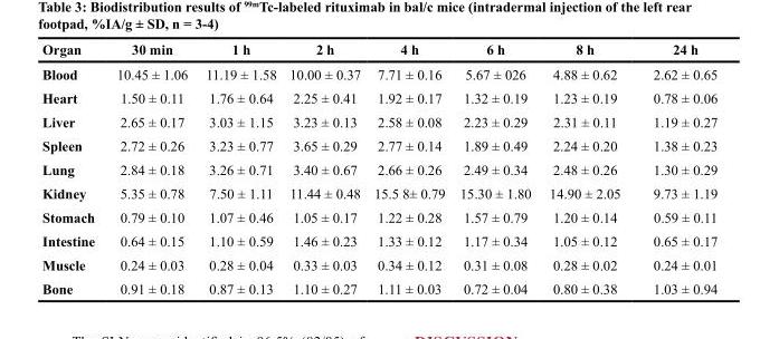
<table><thead><tr><td>Organ</td><td>30 min</td><td>1 h</td><td>2 h</td><td>4 h</td><td>6 h</td><td>8 h</td><td>24 h</td></tr></thead><tbody><tr><td>Blood</td><td>10.45 ± 1.06</td><td>11.19 ± 1.58</td><td>10.00 ± 0.37</td><td>7.71 ± 0.16</td><td>5.67 ± 026</td><td>4.88 ± 0.62</td><td>2.62 ± 0.65</td></tr><tr><td>Heart</td><td>1.50 ± 0.11</td><td>1.76 ± 0.64</td><td>2.25 ± 0.41</td><td>1.92 ± 0.17</td><td>1.32 ± 0.19</td><td>1.23 ± 0.19</td><td>0.78 ± 0.06</td></tr><tr><td>Liver</td><td>2.65 ± 0.17</td><td>3.03 ± 1.15</td><td>3.23 ± 0.13</td><td>2.58 ± 0.08</td><td>2.23 ± 0.29</td><td>2.31 ± 0.11</td><td>1.19 ± 0.27</td></tr><tr><td>Spleen</td><td>2.72 ± 0.26</td><td>3.23 ± 0.77</td><td>3.65 ± 0.29</td><td>2.77 ± 0.14</td><td>1.89 ± 0.49</td><td>2.24 ± 0.20</td><td>1.38 ± 0.23</td></tr><tr><td>Lung</td><td>2.84 ± 0.18</td><td>3.26 ± 0.71</td><td>3.40 ± 0.67</td><td>2.66 ± 0.26</td><td>2.49 ± 0.34</td><td>2.48 ± 0.26</td><td>1.30 ± 0.29</td></tr><tr><td>Kidney</td><td>5.35 ± 0.78</td><td>7.50 ± 1.11</td><td>11.44 ± 0.48</td><td>15.5 8± 0.79</td><td>15.30 ± 1.80</td><td>14.90 ± 2.05</td><td>9.73 ± 1.19</td></tr><tr><td>Stomach</td><td>0.79 ± 0.10</td><td>1.07 ± 0.46</td><td>1.05 ± 0.17</td><td>1.22 ± 0.28</td><td>1.57 ± 0.79</td><td>1.20 ± 0.14</td><td>0.59 ± 0.11</td></tr><tr><td>Intestine</td><td>0.64 ± 0.15</td><td>1.10 ± 0.59</td><td>1.46 ± 0.23</td><td>1.33 ± 0.12</td><td>1.17 ± 0.34</td><td>1.05 ± 0.12</td><td>0.65 ± 0.17</td></tr><tr><td>Muscle</td><td>0.24 ± 0.03</td><td>0.28 ± 0.04</td><td>0.33 ± 0.03</td><td>0.34 ± 0.12</td><td>0.31 ± 0.08</td><td>0.28 ± 0.02</td><td>0.24 ± 0.01</td></tr><tr><td>Bone</td><td>0.91 ± 0.18</td><td>0.87 ± 0.13</td><td>1.10 ± 0.27</td><td>1.11 ± 0.03</td><td>0.72 ± 0.04</td><td>0.80 ± 0.38</td><td>1.03 ± 0.94</td></tr></tbody></table>